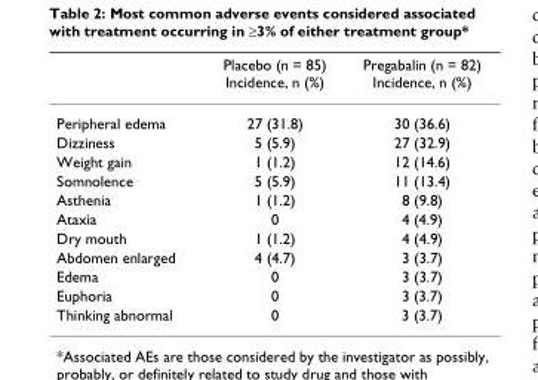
<table><thead><tr><td></td><td>Placebo (n = 85) Incidence, n (%)</td><td>Pregabalin (n = 82) Incidence, n (%)</td></tr></thead><tbody><tr><td>Peripheral edema</td><td>27 (31.8)</td><td>30 (36.6)</td></tr><tr><td>Dizziness</td><td>5 (5.9)</td><td>27 (32.9)</td></tr><tr><td>Weight gain</td><td>1 (1.2)</td><td>12 (14.6)</td></tr><tr><td>Somnolence</td><td>5 (5.9)</td><td>11 (13.4)</td></tr><tr><td>Asthenia</td><td>1 (1.2)</td><td>8 (9.8)</td></tr><tr><td>Ataxia</td><td>0</td><td>4 (4.9)</td></tr><tr><td>Dry mouth</td><td>1 (1.2)</td><td>4 (4.9)</td></tr><tr><td>Abdomen enlarged</td><td>4 (4.7)</td><td>3 (3.7)</td></tr><tr><td>Edema</td><td>0</td><td>3 (3.7)</td></tr><tr><td>Euphoria</td><td>0</td><td>3 (3.7)</td></tr><tr><td>Thinking abnormal</td><td>0</td><td>3 (3.7)</td></tr></tbody></table>